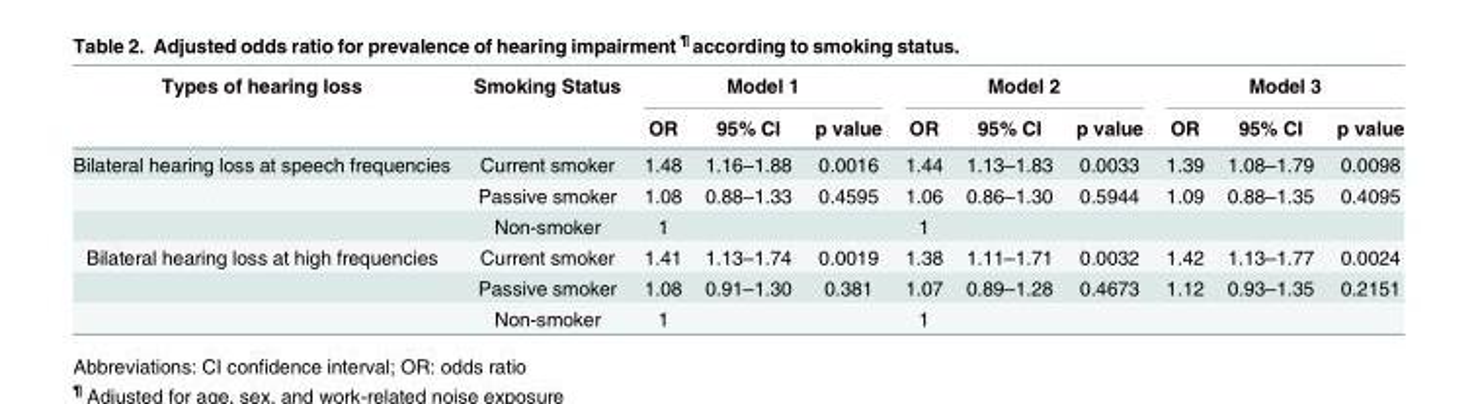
<table><thead><tr><td rowspan="2">Types of hearing loss</td><td rowspan="2">Smoking Status</td><td colspan="3">Model 1</td><td colspan="3">Model 2</td><td colspan="3">Model 3</td></tr><tr><td>OR</td><td>95% CI</td><td>p value</td><td>OR</td><td>95% CI</td><td>p value</td><td>OR</td><td>95% CI</td><td>p value</td></tr></thead><tbody><tr><td rowspan="3">Bilateral hearing loss at speech frequencies</td><td>Current smoker</td><td>1.48</td><td>1.16–1.88</td><td>0.0016</td><td>1.44</td><td>1.13–1.83</td><td>0.0033</td><td>1.39</td><td>1.08–1.79</td><td>0.0098</td></tr><tr><td>Passive smoker</td><td>1.08</td><td>0.88–1.33</td><td>0.4595</td><td>1.06</td><td>0.86–1.30</td><td>0.5944</td><td>1.09</td><td>0.88–1.35</td><td>0.4095</td></tr><tr><td>Non-smoker</td><td>1</td><td></td><td></td><td>1</td><td></td><td></td><td></td><td></td><td></td></tr><tr><td rowspan="3">Bilateral hearing loss at high frequencies</td><td>Current smoker</td><td>1.41</td><td>1.13–1.74</td><td>0.0019</td><td>1.38</td><td>1.11–1.71</td><td>0.0032</td><td>1.42</td><td>1.13–1.77</td><td>0.0024</td></tr><tr><td>Passive smoker</td><td>1.08</td><td>0.91–1.30</td><td>0.381</td><td>1.07</td><td>0.89–1.28</td><td>0.4673</td><td>1.12</td><td>0.93–1.35</td><td>0.2151</td></tr><tr><td>Non-smoker</td><td>1</td><td></td><td></td><td>1</td><td></td><td></td><td></td><td></td><td></td></tr></tbody></table>